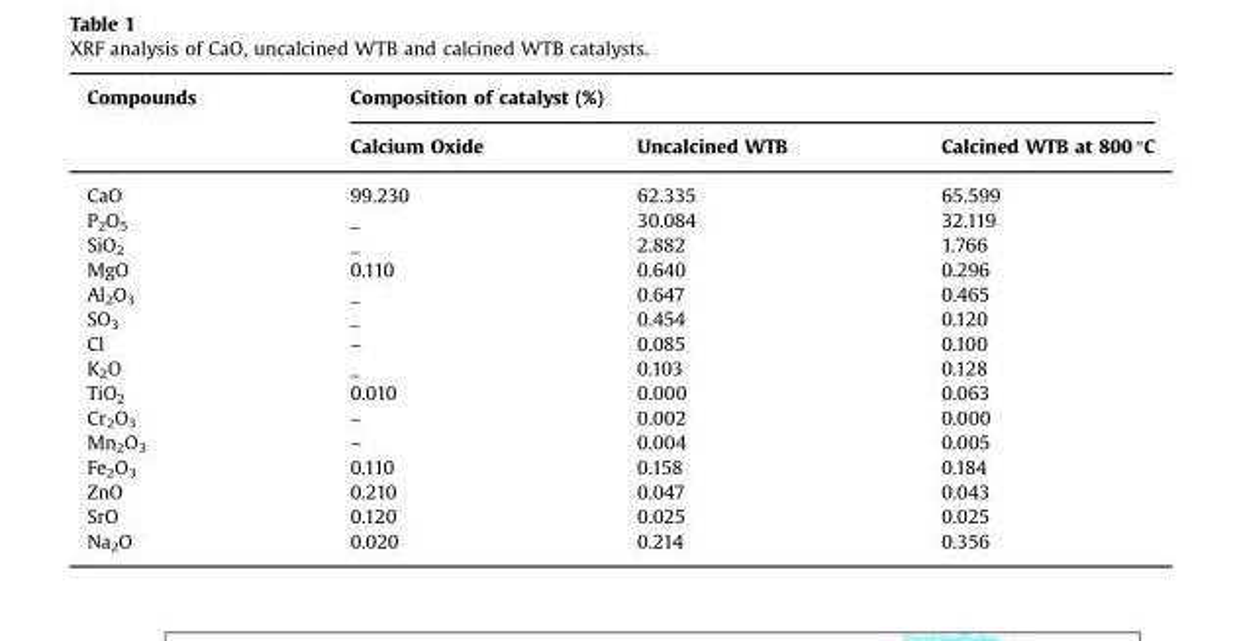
<table><thead><tr><td rowspan="2">Compounds</td><td colspan="3">Composition of catalyst (%)</td></tr><tr><td>Calcium Oxide</td><td>Uncalcined WTB</td><td>Calcined WTB at 800 °C</td></tr></thead><tbody><tr><td>CaO</td><td>99.230</td><td>62.335</td><td>65.599</td></tr><tr><td>P<sub>2</sub>O<sub>5</sub></td><td>_</td><td>30.084</td><td>32.119</td></tr><tr><td>SiO<sub>2</sub></td><td>_</td><td>2.882</td><td>1.766</td></tr><tr><td>MgO</td><td>0.110</td><td>0.640</td><td>0.296</td></tr><tr><td>Al<sub>2</sub>O<sub>3</sub></td><td>_</td><td>0.647</td><td>0.465</td></tr><tr><td>SO<sub>3</sub></td><td>_</td><td>0.454</td><td>0.120</td></tr><tr><td>Cl</td><td>–</td><td>0.085</td><td>0.100</td></tr><tr><td>K<sub>2</sub>O</td><td>_</td><td>0.103</td><td>0.128</td></tr><tr><td>TiO<sub>2</sub></td><td>0.010</td><td>0.000</td><td>0.063</td></tr><tr><td>Cr<sub>2</sub>O<sub>3</sub></td><td>–</td><td>0.002</td><td>0.000</td></tr><tr><td>Mn<sub>2</sub>O<sub>3</sub></td><td>–</td><td>0.004</td><td>0.005</td></tr><tr><td>Fe<sub>2</sub>O<sub>3</sub></td><td>0.110</td><td>0.158</td><td>0.184</td></tr><tr><td>ZnO</td><td>0.210</td><td>0.047</td><td>0.043</td></tr><tr><td>SrO</td><td>0.120</td><td>0.025</td><td>0.025</td></tr><tr><td>Na<sub>2</sub>O</td><td>0.020</td><td>0.214</td><td>0.356</td></tr></tbody></table>